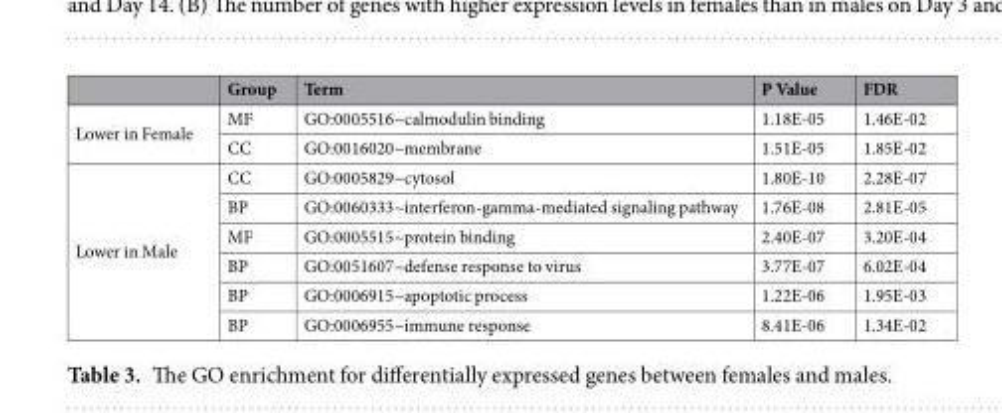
<table><thead><tr><td></td><td>Group</td><td>Term</td><td>P Value</td><td>FDR</td></tr></thead><tbody><tr><td rowspan="2">Lower in Female</td><td>MF</td><td>GO:0005516~calmodulin binding</td><td>1.18E-05</td><td>1.46E-02</td></tr><tr><td>CC</td><td>GO:0016020~membrane</td><td>1.51E-05</td><td>1.85E-02</td></tr><tr><td rowspan="6">Lower in Male</td><td>CC</td><td>GO:0005829~cytosol</td><td>1.80E-10</td><td>2.28E-07</td></tr><tr><td>BP</td><td>GO:0060333~interferon-gamma-mediated signaling pathway</td><td>1.76E-08</td><td>2.81E-05</td></tr><tr><td>MF</td><td>GO:0005515~protein binding</td><td>2.40E-07</td><td>3.20E-04</td></tr><tr><td>BP</td><td>GO:0051607~defense response to virus</td><td>3.77E-07</td><td>6.02E-04</td></tr><tr><td>BP</td><td>GO:0006915~apoptotic process</td><td>1.22E-06</td><td>1.95E-03</td></tr><tr><td>BP</td><td>GO:0006955~immune response</td><td>8.41E-06</td><td>1.34E-02</td></tr></tbody></table>